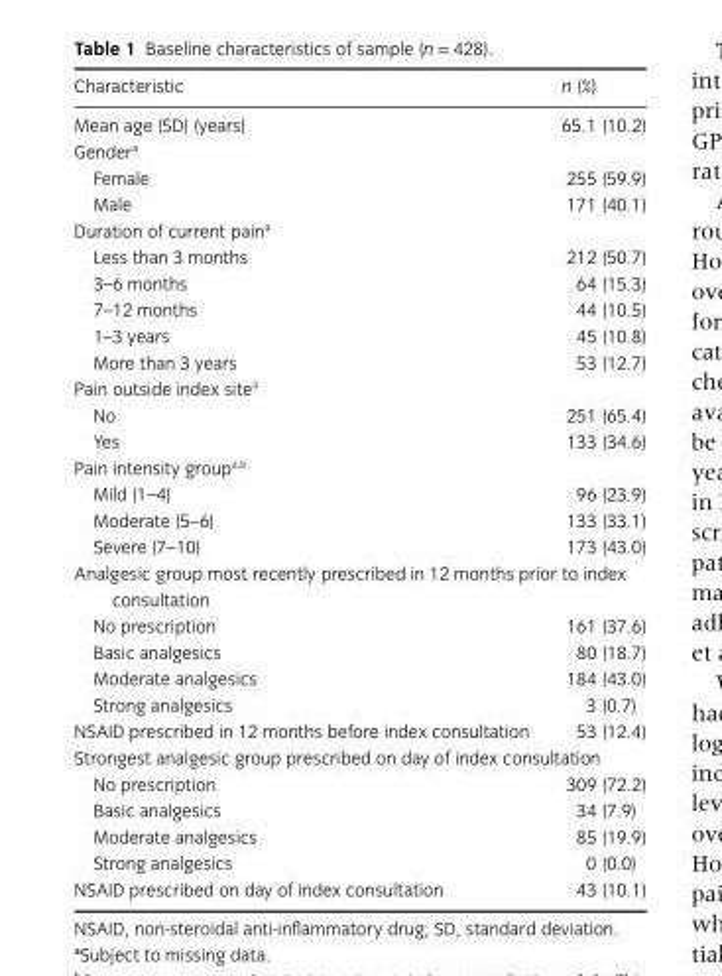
<table><thead><tr><td>Characteristic</td><td>n (%)</td></tr></thead><tbody><tr><td>Mean age (SD) (years)</td><td>65.1 (10.2)</td></tr><tr><td colspan="2">Gender<sup>a</sup></td></tr><tr><td>Female</td><td>255 (59.9)</td></tr><tr><td>Male</td><td>171 (40.1)</td></tr><tr><td colspan="2">Duration of current pain<sup>a</sup></td></tr><tr><td>Less than 3 months</td><td>212 (50.7)</td></tr><tr><td>3–6 months</td><td>64 (15.3)</td></tr><tr><td>7–12 months</td><td>44 (10.5)</td></tr><tr><td>1–3 years</td><td>45 (10.8)</td></tr><tr><td>More than 3 years</td><td>53 (12.7)</td></tr><tr><td colspan="2">Pain outside index site<sup>a</sup></td></tr><tr><td>No</td><td>251 (65.4)</td></tr><tr><td>Yes</td><td>133 (34.6)</td></tr><tr><td colspan="2">Pain intensity group<sup>a</sup>,<sup>b</sup></td></tr><tr><td>Mild (1–4)</td><td>96 (23.9)</td></tr><tr><td>Moderate (5–6)</td><td>133 (33.1)</td></tr><tr><td>Severe (7–10)</td><td>173 (43.0)</td></tr><tr><td colspan="2">Analgesic group most recently prescribed in 12 months prior to index consultation</td></tr><tr><td>No prescription</td><td>161 (37.6)</td></tr><tr><td>Basic analgesics</td><td>80 (18.7)</td></tr><tr><td>Moderate analgesics</td><td>184 (43.0)</td></tr><tr><td>Strong analgesics</td><td>3 (0.7)</td></tr><tr><td>NSAID prescribed in 12 months before index consultation</td><td>53 (12.4)</td></tr><tr><td colspan="2">Strongest analgesic group prescribed on day of index consultation</td></tr><tr><td>No prescription</td><td>309 (72.2)</td></tr><tr><td>Basic analgesics</td><td>34 (7.9)</td></tr><tr><td>Moderate analgesics</td><td>85 (19.9)</td></tr><tr><td>Strong analgesics</td><td>0 (0.0)</td></tr><tr><td>NSAID prescribed on day of index consultation</td><td>43 (10.1)</td></tr></tbody></table>